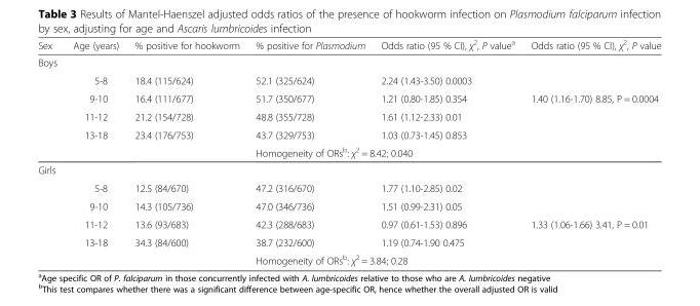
<table><thead><tr><td>Sex</td><td>Age (years)</td><td>% positive for hookworm</td><td>% positive for Plasmodium</td><td>Odds ratio (95 % CI), χ<sup>2</sup>, P value<sup>a</sup></td><td>Odds ratio (95 % CI), χ<sup>2</sup>, P value</td></tr></thead><tbody><tr><td colspan="6">Boys</td></tr><tr><td></td><td>5-8</td><td>18.4 (115/624)</td><td>52.1 (325/624)</td><td>2.24 (1.43-3.50) 0.0003</td><td></td></tr><tr><td></td><td>9-10</td><td>16.4 (111/677)</td><td>51.7 (350/677)</td><td>1.21 (0.80-1.85) 0.354</td><td>1.40 (1.16-1.70) 8.85, P = 0.0004</td></tr><tr><td></td><td>11-12</td><td>21.2 (154/728)</td><td>48.8 (355/728)</td><td>1.61 (1.12-2.33) 0.01</td><td></td></tr><tr><td></td><td>13-18</td><td>23.4 (176/753)</td><td>43.7 (329/753)</td><td>1.03 (0.73-1.45) 0.853</td><td></td></tr><tr><td></td><td></td><td></td><td colspan="3">Homogeneity of ORs<sup>b</sup>: χ<sup>2</sup> = 8.42; 0.040</td></tr><tr><td colspan="6">Girls</td></tr><tr><td></td><td>5-8</td><td>12.5 (84/670)</td><td>47.2 (316/670)</td><td>1.77 (1.10-2.85) 0.02</td><td></td></tr><tr><td></td><td>9-10</td><td>14.3 (105/736)</td><td>47.0 (346/736)</td><td>1.51 (0.99-2.31) 0.05</td><td></td></tr><tr><td></td><td>11-12</td><td>13.6 (93/683)</td><td>42.3 (288/683)</td><td>0.97 (0.61-1.53) 0.896</td><td>1.33 (1.06-1.66) 3.41, P = 0.01</td></tr><tr><td></td><td>13-18</td><td>34.3 (84/600)</td><td>38.7 (232/600)</td><td>1.19 (0.74-1.90 0.475</td><td></td></tr><tr><td></td><td></td><td></td><td colspan="3">Homogeneity of ORs<sup>b</sup>: χ<sup>2</sup> = 3.84; 0.28</td></tr></tbody></table>